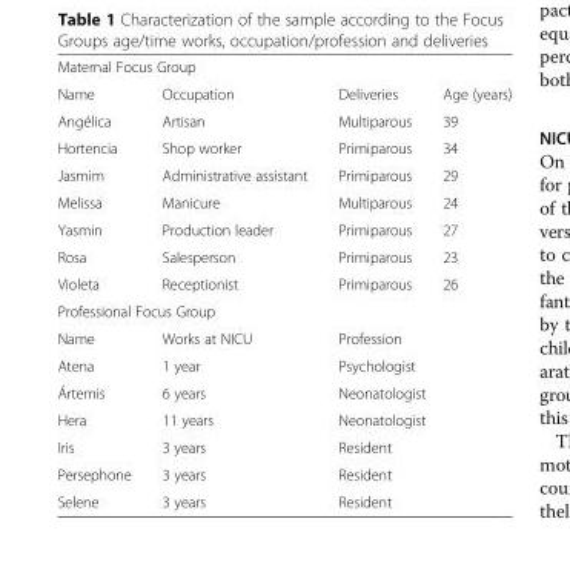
<table><tbody><tr><td colspan="4">Maternal Focus Group</td></tr><tr><td>Name</td><td>Occupation</td><td>Deliveries</td><td>Age (years)</td></tr><tr><td>Angélica</td><td>Artisan</td><td>Multiparous</td><td>39</td></tr><tr><td>Hortencia</td><td>Shop worker</td><td>Primiparous</td><td>34</td></tr><tr><td>Jasmim</td><td>Administrative assistant</td><td>Primiparous</td><td>29</td></tr><tr><td>Melissa</td><td>Manicure</td><td>Multiparous</td><td>24</td></tr><tr><td>Yasmin</td><td>Production leader</td><td>Primiparous</td><td>27</td></tr><tr><td>Rosa</td><td>Salesperson</td><td>Primiparous</td><td>23</td></tr><tr><td>Violeta</td><td>Receptionist</td><td>Primiparous</td><td>26</td></tr><tr><td colspan="4">Professional Focus Group</td></tr><tr><td>Name</td><td>Works at NICU</td><td colspan="2">Profession</td></tr><tr><td>Atena</td><td>1 year</td><td colspan="2">Psychologist</td></tr><tr><td>Ártemis</td><td>6 years</td><td colspan="2">Neonatologist</td></tr><tr><td>Hera</td><td>11 years</td><td colspan="2">Neonatologist</td></tr><tr><td>Iris</td><td>3 years</td><td colspan="2">Resident</td></tr><tr><td>Persephone</td><td>3 years</td><td colspan="2">Resident</td></tr><tr><td>Selene</td><td>3 years</td><td colspan="2">Resident</td></tr></tbody></table>